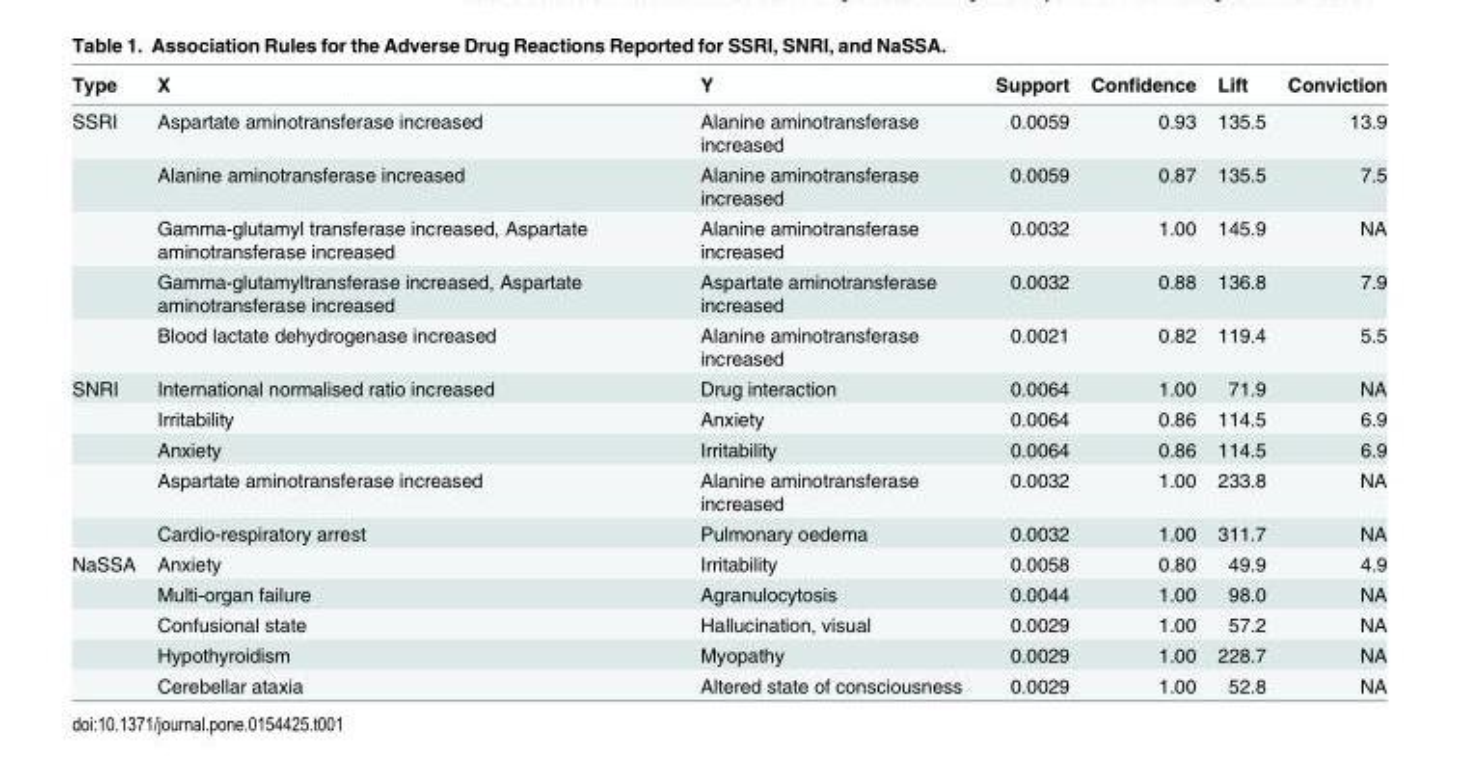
<table><thead><tr><td>Type</td><td>X</td><td>Y</td><td>Support</td><td>Confidence</td><td>Lift</td><td>Conviction</td></tr></thead><tbody><tr><td rowspan="5">SSRI</td><td>Aspartate aminotransferase increased</td><td>Alanine aminotransferase increased</td><td>0.0059</td><td>0.93</td><td>135.5</td><td>13.9</td></tr><tr><td>Alanine aminotransferase increased</td><td>Alanine aminotransferase increased</td><td>0.0059</td><td>0.87</td><td>135.5</td><td>7.5</td></tr><tr><td>Gamma-glutamyl transferase increased, Aspartate aminotransferase increased</td><td>Alanine aminotransferase increased</td><td>0.0032</td><td>1.00</td><td>145.9</td><td>NA</td></tr><tr><td>Gamma-glutamyltransferase increased, Aspartate aminotransferase increased</td><td>Aspartate aminotransferase increased</td><td>0.0032</td><td>0.88</td><td>136.8</td><td>7.9</td></tr><tr><td>Blood lactate dehydrogenase increased</td><td>Alanine aminotransferase increased</td><td>0.0021</td><td>0.82</td><td>119.4</td><td>5.5</td></tr><tr><td rowspan="5">SNRI</td><td>International normalised ratio increased</td><td>Drug interaction</td><td>0.0064</td><td>1.00</td><td>71.9</td><td>NA</td></tr><tr><td>Irritability</td><td>Anxiety</td><td>0.0064</td><td>0.86</td><td>114.5</td><td>6.9</td></tr><tr><td>Anxiety</td><td>Irritability</td><td>0.0064</td><td>0.86</td><td>114.5</td><td>6.9</td></tr><tr><td>Aspartate aminotransferase increased</td><td>Alanine aminotransferase increased</td><td>0.0032</td><td>1.00</td><td>233.8</td><td>NA</td></tr><tr><td>Cardio-respiratory arrest</td><td>Pulmonary oedema</td><td>0.0032</td><td>1.00</td><td>311.7</td><td>NA</td></tr><tr><td rowspan="5">NaSSA</td><td>Anxiety</td><td>Irritability</td><td>0.0058</td><td>0.80</td><td>49.9</td><td>4.9</td></tr><tr><td>Multi-organ failure</td><td>Agranulocytosis</td><td>0.0044</td><td>1.00</td><td>98.0</td><td>NA</td></tr><tr><td>Confusional state</td><td>Hallucination, visual</td><td>0.0029</td><td>1.00</td><td>57.2</td><td>NA</td></tr><tr><td>Hypothyroidism</td><td>Myopathy</td><td>0.0029</td><td>1.00</td><td>228.7</td><td>NA</td></tr><tr><td>Cerebellar ataxia</td><td>Altered state of consciousness</td><td>0.0029</td><td>1.00</td><td>52.8</td><td>NA</td></tr></tbody></table>